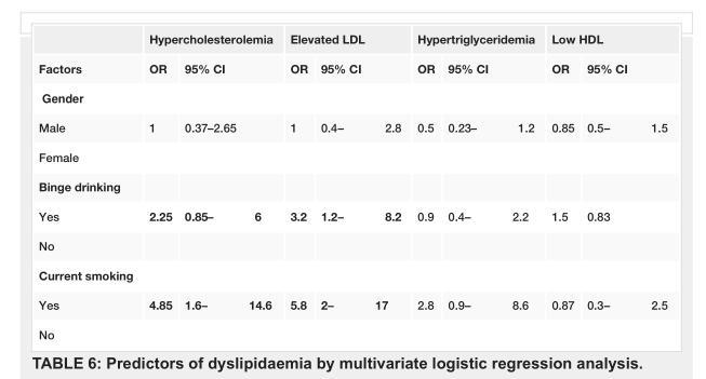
<table><thead><tr><td rowspan="2">Factors</td><td colspan="2">Hypercholesterolemia</td><td colspan="2">Elevated LDL</td><td colspan="2">Hypertriglyceridemia</td><td colspan="2">Low HDL</td></tr><tr><td>OR</td><td>95% CI</td><td>OR</td><td>95% CI</td><td>OR</td><td>95% CI</td><td>OR</td><td>95% CI</td></tr></thead><tbody><tr><td colspan="9">Gender</td></tr><tr><td>Male</td><td>1</td><td>0.37–2.65</td><td>1</td><td>0.4–2.8</td><td>0.5</td><td>0.23–1.2</td><td>0.85</td><td>0.5–1.5</td></tr><tr><td colspan="9">Female</td></tr><tr><td colspan="9">Binge drinking</td></tr><tr><td>Yes</td><td>2.25</td><td>0.85–6</td><td>3.2</td><td>1.2–8.2</td><td>0.9</td><td>0.4–2.2</td><td>1.5</td><td>0.83</td></tr><tr><td colspan="9">No</td></tr><tr><td colspan="9">Current smoking</td></tr><tr><td>Yes</td><td>4.85</td><td>1.6–14.6</td><td>5.8</td><td>2–17</td><td>2.8</td><td>0.9–8.6</td><td>0.87</td><td>0.3–2.5</td></tr><tr><td>No</td><td></td><td></td><td></td><td></td><td></td><td></td><td></td><td></td></tr></tbody></table>